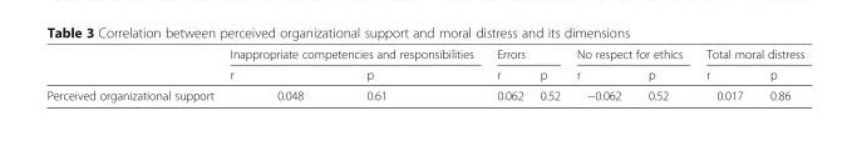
<table><thead><tr><td rowspan="2"></td><td colspan="2">Inappropriate competencies and responsibilities</td><td colspan="2">Errors</td><td colspan="2">No respect for ethics</td><td colspan="2">Total moral distress</td></tr><tr><td>r</td><td>p</td><td>r</td><td>p</td><td>r</td><td>p</td><td>r</td><td>p</td></tr></thead><tbody><tr><td>Perceived organizational support</td><td>0.048</td><td>0.61</td><td>0.062</td><td>0.52</td><td>−0.062</td><td>0.52</td><td>0.017</td><td>0.86</td></tr></tbody></table>